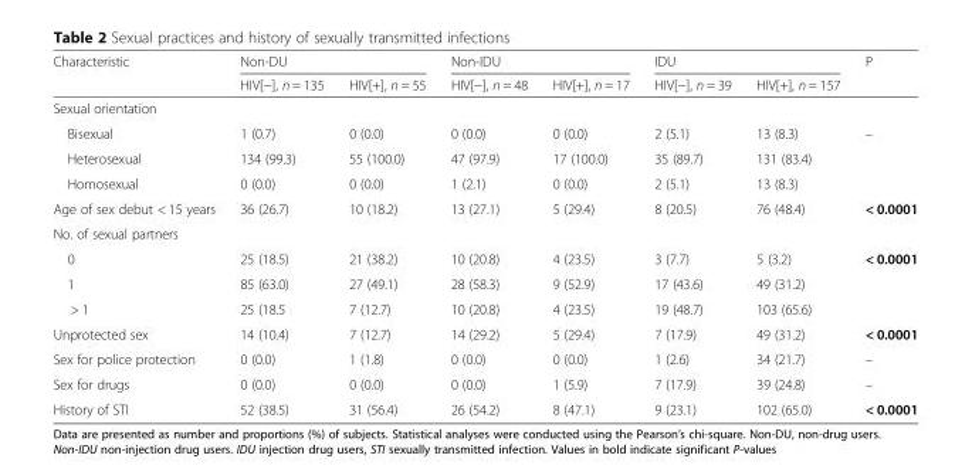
<table><thead><tr><td rowspan="2">Characteristic</td><td colspan="2">Non-DU</td><td colspan="2">Non-IDU</td><td colspan="2">IDU</td><td rowspan="2">P</td></tr><tr><td>HIV[−], n = 135</td><td>HIV[+], n = 55</td><td>HIV[−], n = 48</td><td>HIV[+], n = 17</td><td>HIV[−], n = 39</td><td>HIV[+], n = 157</td></tr></thead><tbody><tr><td colspan="8">Sexual orientation</td></tr><tr><td>Bisexual</td><td>1 (0.7)</td><td>0 (0.0)</td><td>0 (0.0)</td><td>0 (0.0)</td><td>2 (5.1)</td><td>13 (8.3)</td><td rowspan="3">–</td></tr><tr><td>Heterosexual</td><td>134 (99.3)</td><td>55 (100.0)</td><td>47 (97.9)</td><td>17 (100.0)</td><td>35 (89.7)</td><td>131 (83.4)</td></tr><tr><td>Homosexual</td><td>0 (0.0)</td><td>0 (0.0)</td><td>1 (2.1)</td><td>0 (0.0)</td><td>2 (5.1)</td><td>13 (8.3)</td></tr><tr><td>Age of sex debut &lt; 15 years</td><td>36 (26.7)</td><td>10 (18.2)</td><td>13 (27.1)</td><td>5 (29.4)</td><td>8 (20.5)</td><td>76 (48.4)</td><td>&lt; 0.0001</td></tr><tr><td colspan="8">No. of sexual partners</td></tr><tr><td>0</td><td>25 (18.5)</td><td>21 (38.2)</td><td>10 (20.8)</td><td>4 (23.5)</td><td>3 (7.7)</td><td>5 (3.2)</td><td rowspan="3">&lt; 0.0001</td></tr><tr><td>1</td><td>85 (63.0)</td><td>27 (49.1)</td><td>28 (58.3)</td><td>9 (52.9)</td><td>17 (43.6)</td><td>49 (31.2)</td></tr><tr><td>&gt; 1</td><td>25 (18.5</td><td>7 (12.7)</td><td>10 (20.8)</td><td>4 (23.5)</td><td>19 (48.7)</td><td>103 (65.6)</td></tr><tr><td>Unprotected sex</td><td>14 (10.4)</td><td>7 (12.7)</td><td>14 (29.2)</td><td>5 (29.4)</td><td>7 (17.9)</td><td>49 (31.2)</td><td>&lt; 0.0001</td></tr><tr><td>Sex for police protection</td><td>0 (0.0)</td><td>1 (1.8)</td><td>0 (0.0)</td><td>0 (0.0)</td><td>1 (2.6)</td><td>34 (21.7)</td><td>–</td></tr><tr><td>Sex for drugs</td><td>0 (0.0)</td><td>0 (0.0)</td><td>0 (0.0)</td><td>1 (5.9)</td><td>7 (17.9)</td><td>39 (24.8)</td><td>–</td></tr><tr><td>History of STI</td><td>52 (38.5)</td><td>31 (56.4)</td><td>26 (54.2)</td><td>8 (47.1)</td><td>9 (23.1)</td><td>102 (65.0)</td><td>&lt; 0.0001</td></tr></tbody></table>